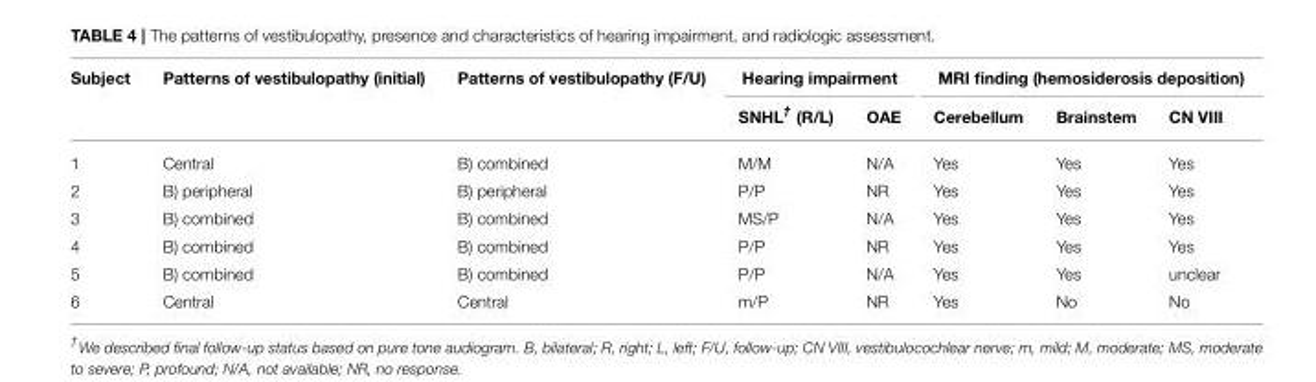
<table><thead><tr><td rowspan="2">Subject</td><td rowspan="2">Patterns of vestibulopathy (initial)</td><td rowspan="2">Patterns of vestibulopathy (F/U)</td><td colspan="2">Hearing impairment</td><td colspan="3">MRI finding (hemosiderosis deposition)</td></tr><tr><td>SNHL<sup>†</sup> (R/L)</td><td>OAE</td><td>Cerebellum</td><td>Brainstem</td><td>CN VIII</td></tr></thead><tbody><tr><td>1</td><td>Central</td><td>B) combined</td><td>M/M</td><td>N/A</td><td>Yes</td><td>Yes</td><td>Yes</td></tr><tr><td>2</td><td>B) peripheral</td><td>B) peripheral</td><td>P/P</td><td>NR</td><td>Yes</td><td>Yes</td><td>Yes</td></tr><tr><td>3</td><td>B) combined</td><td>B) combined</td><td>MS/P</td><td>N/A</td><td>Yes</td><td>Yes</td><td>Yes</td></tr><tr><td>4</td><td>B) combined</td><td>B) combined</td><td>P/P</td><td>NR</td><td>Yes</td><td>Yes</td><td>Yes</td></tr><tr><td>5</td><td>B) combined</td><td>B) combined</td><td>P/P</td><td>N/A</td><td>Yes</td><td>Yes</td><td>unclear</td></tr><tr><td>6</td><td>Central</td><td>Central</td><td>m/P</td><td>NR</td><td>Yes</td><td>No</td><td>No</td></tr></tbody></table>